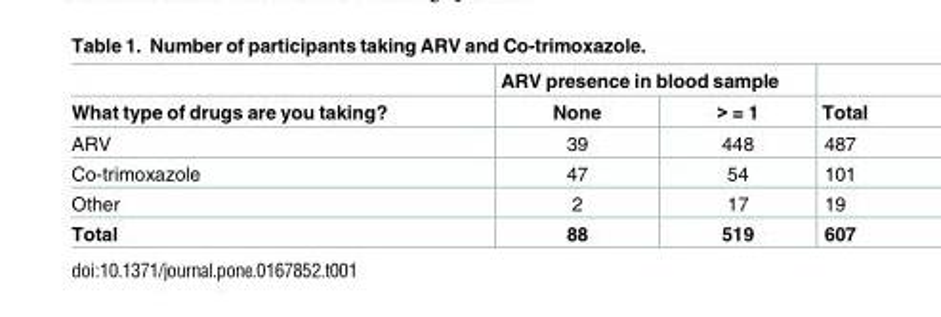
<table><thead><tr><td rowspan="2">What type of drugs are you taking?</td><td colspan="2">ARV presence in blood sample</td><td rowspan="2">Total</td></tr><tr><td>None</td><td>&gt; = 1</td></tr></thead><tbody><tr><td>ARV</td><td>39</td><td>448</td><td>487</td></tr><tr><td>Co-trimoxazole</td><td>47</td><td>54</td><td>101</td></tr><tr><td>Other</td><td>2</td><td>17</td><td>19</td></tr><tr><td>Total</td><td>88</td><td>519</td><td>607</td></tr></tbody></table>